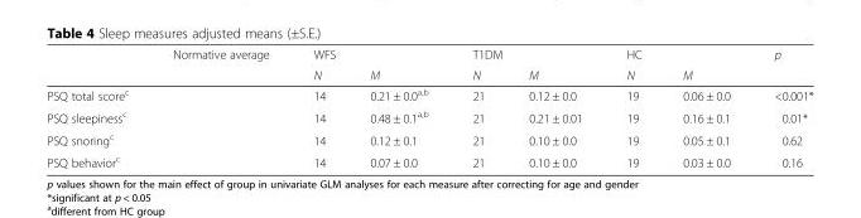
<table><thead><tr><td rowspan="2"></td><td rowspan="2">Normative average</td><td colspan="2">WFS</td><td colspan="2">T1DM</td><td colspan="2">HC</td><td rowspan="2">p</td></tr><tr><td>N</td><td>M</td><td>N</td><td>M</td><td>N</td><td>M</td></tr></thead><tbody><tr><td>PSQ total score<sup>c</sup></td><td></td><td>14</td><td>0.21 ± 0.0<sup>a,b</sup></td><td>21</td><td>0.12 ± 0.0</td><td>19</td><td>0.06 ± 0.0</td><td>&lt;0.001*</td></tr><tr><td>PSQ sleepiness<sup>c</sup></td><td></td><td>14</td><td>0.48 ± 0.1<sup>a,b</sup></td><td>21</td><td>0.21 ± 0.01</td><td>19</td><td>0.16 ± 0.1</td><td>0.01*</td></tr><tr><td>PSQ snoring<sup>c</sup></td><td></td><td>14</td><td>0.12 ± 0.1</td><td>21</td><td>0.10 ± 0.0</td><td>19</td><td>0.05 ± 0.1</td><td>0.62</td></tr><tr><td>PSQ behavior<sup>c</sup></td><td></td><td>14</td><td>0.07 ± 0.0</td><td>21</td><td>0.10 ± 0.0</td><td>19</td><td>0.03 ± 0.0</td><td>0.16</td></tr></tbody></table>